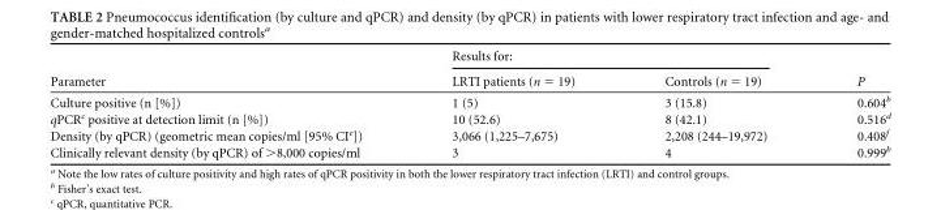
<table><thead><tr><td rowspan="2">Parameter</td><td colspan="2">Results for:</td><td rowspan="2">P</td></tr><tr><td>LRTI patients (n = 19)</td><td>Controls (n = 19)</td></tr></thead><tbody><tr><td>Culture positive (n [%])</td><td>1 (5)</td><td>3 (15.8)</td><td>0.604<sup>b</sup></td></tr><tr><td>qPCR<sup>c</sup> positive at detection limit (n [%])</td><td>10 (52.6)</td><td>8 (42.1)</td><td>0.516<sup>d</sup></td></tr><tr><td>Density (by qPCR) (geometric mean copies/ml [95% CI<sup>e</sup>])</td><td>3,066 (1,225–7,675)</td><td>2,208 (244–19,972)</td><td>0.408<sup>f</sup></td></tr><tr><td>Clinically relevant density (by qPCR) of &gt;8,000 copies/ml</td><td>3</td><td>4</td><td>0.999<sup>b</sup></td></tr></tbody></table>